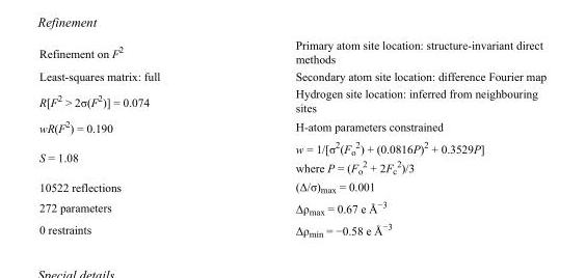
<table><tbody><tr><td>Refinement on F<sup>2</sup></td><td>Primary atom site location: structure-invariant direct methods</td></tr><tr><td>Least-squares matrix: full</td><td>Secondary atom site location: difference Fourier map</td></tr><tr><td>R[F<sup>2</sup> &gt; 2σ(F<sup>2</sup>)] = 0.074</td><td>Hydrogen site location: inferred from neighbouring sites</td></tr><tr><td>wR(F<sup>2</sup>) = 0.190</td><td>H-atom parameters constrained</td></tr><tr><td>S = 1.08</td><td>w = 1/[σ<sup>2</sup>(F<sub>o</sub> <sup>2</sup>) + (0.0816P)<sup>2</sup> + 0.3529P] where P = (F<sub>o</sub> <sup>2</sup> + 2F<sub>c</sub> <sup>2</sup>)/3</td></tr><tr><td>10522 reflections</td><td>(Δ/σ)<sub>max</sub> = 0.001</td></tr><tr><td>272 parameters</td><td>Δρ<sub>max</sub> = 0.67 e Å<sup>−3</sup></td></tr><tr><td>0 restraints</td><td>Δρ<sub>min</sub> = −0.58 e Å<sup>−3</sup></td></tr></tbody></table>